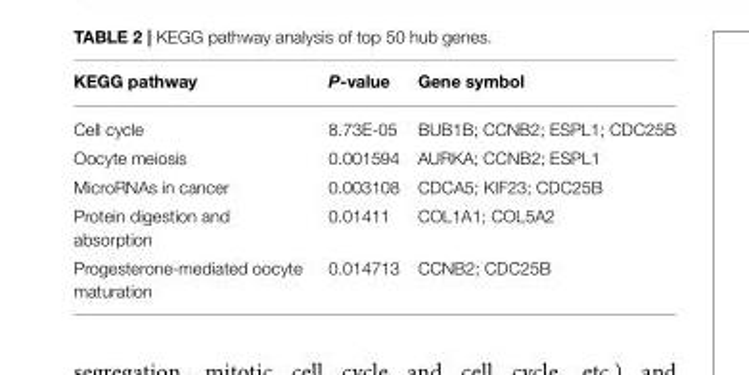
<table><thead><tr><td>KEGG pathway</td><td>P-value</td><td>Gene symbol</td></tr></thead><tbody><tr><td>Cell cycle</td><td>8.73E-05</td><td>BUB1B; CCNB2; ESPL1; CDC25B</td></tr><tr><td>Oocyte meiosis</td><td>0.001594</td><td>AURKA; CCNB2; ESPL1</td></tr><tr><td>MicroRNAs in cancer</td><td>0.003108</td><td>CDCA5; KIF23; CDC25B</td></tr><tr><td>Protein digestion and absorption</td><td>0.01411</td><td>COL1A1; COL5A2</td></tr><tr><td>Progesterone-mediated oocyte maturation</td><td>0.014713</td><td>CCNB2; CDC25B</td></tr></tbody></table>